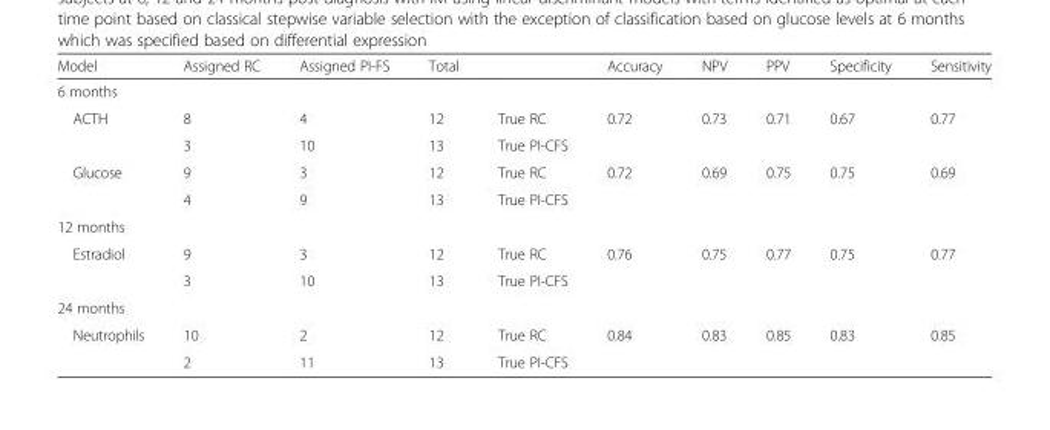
<table><thead><tr><td>Model</td><td>Assigned RC</td><td>Assigned PI-FS</td><td>Total</td><td></td><td>Accuracy</td><td>NPV</td><td>PPV</td><td>Specificity</td><td>Sensitivity</td></tr></thead><tbody><tr><td colspan="10">6 months</td></tr><tr><td rowspan="2">ACTH</td><td>8</td><td>4</td><td>12</td><td>True RC</td><td>0.72</td><td>0.73</td><td>0.71</td><td>0.67</td><td>0.77</td></tr><tr><td>3</td><td>10</td><td>13</td><td>True PI-CFS</td><td></td><td></td><td></td><td></td><td></td></tr><tr><td rowspan="2">Glucose</td><td>9</td><td>3</td><td>12</td><td>True RC</td><td>0.72</td><td>0.69</td><td>0.75</td><td>0.75</td><td>0.69</td></tr><tr><td>4</td><td>9</td><td>13</td><td>True PI-CFS</td><td></td><td></td><td></td><td></td><td></td></tr><tr><td colspan="10">12 months</td></tr><tr><td rowspan="2">Estradiol</td><td>9</td><td>3</td><td>12</td><td>True RC</td><td>0.76</td><td>0.75</td><td>0.77</td><td>0.75</td><td>0.77</td></tr><tr><td>3</td><td>10</td><td>13</td><td>True PI-CFS</td><td></td><td></td><td></td><td></td><td></td></tr><tr><td colspan="10">24 months</td></tr><tr><td rowspan="2">Neutrophils</td><td>10</td><td>2</td><td>12</td><td>True RC</td><td>0.84</td><td>0.83</td><td>0.85</td><td>0.83</td><td>0.85</td></tr><tr><td>2</td><td>11</td><td>13</td><td>True PI-CFS</td><td></td><td></td><td></td><td></td><td></td></tr></tbody></table>